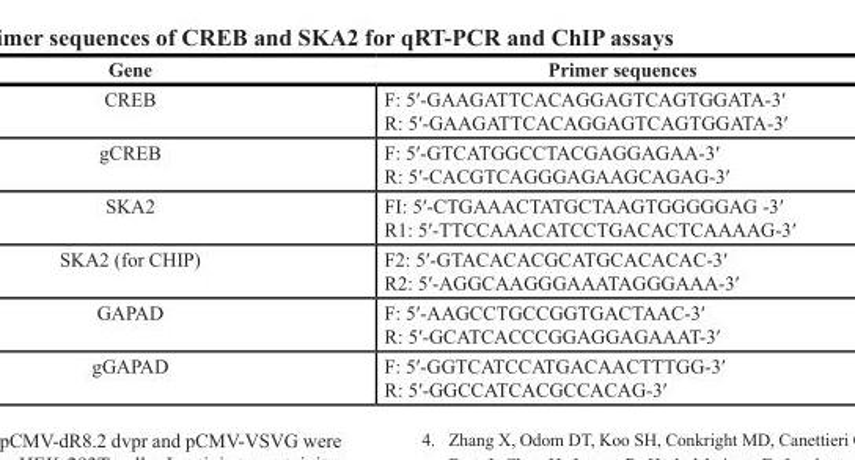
<table><thead><tr><td>Gene</td><td>Primer sequences</td></tr></thead><tbody><tr><td>CREB</td><td>F: 5′-GAAGATTCACAGGAGTCAGTGGATA-3′ R: 5′-GAAGATTCACAGGAGTCAGTGGATA-3′</td></tr><tr><td>gCREB</td><td>F: 5′-GTCATGGCCTACGAGGAGAA-3′ R: 5′-CACGTCAGGGAGAAGCAGAG-3′</td></tr><tr><td>SKA2</td><td>FI: 5′-CTGAAACTATGCTAAGTGGGGGAG -3′ R1: 5′-TTCCAAACATCCTGACACTCAAAAG-3′</td></tr><tr><td>SKA2 (for CHIP)</td><td>F2: 5′-GTACACACGCATGCACACAC-3′ R2: 5′-AGGCAAGGGAAATAGGGAAA-3′</td></tr><tr><td>GAPAD</td><td>F: 5′-AAGCCTGCCGGTGACTAAC-3′ R: 5′-GCATCACCCGGAGGAGAAAT-3′</td></tr><tr><td>gGAPAD</td><td>F: 5′-GGTCATCCATGACAACTTTGG-3′ R: 5′-GGCCATCACGCCACAG-3′</td></tr></tbody></table>